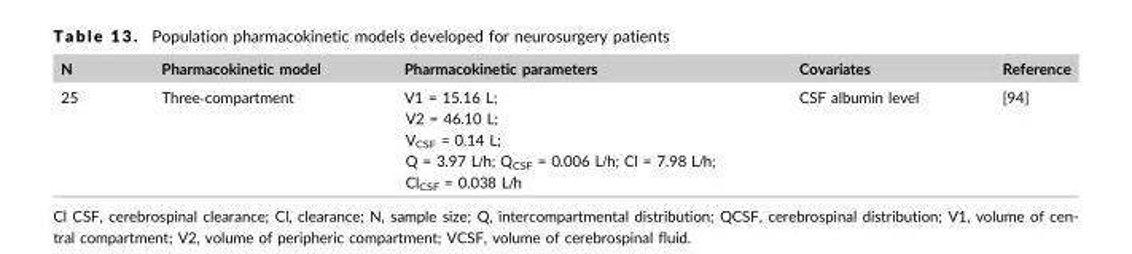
<table><thead><tr><td>N</td><td>Pharmacokinetic model</td><td>Pharmacokinetic parameters</td><td>Covariates</td><td>Reference</td></tr></thead><tbody><tr><td>25</td><td>Three‐compartment</td><td>V1 = 15.16 L; V2 = 46.10 L; V<sub>CSF</sub> = 0.14 L; Q = 3.97 L/h; Q<sub>CSF</sub> = 0.006 L/h; Cl = 7.98 L/h; Cl<sub>CSF</sub> = 0.038 L/h</td><td>CSF albumin level</td><td>[94]</td></tr></tbody></table>